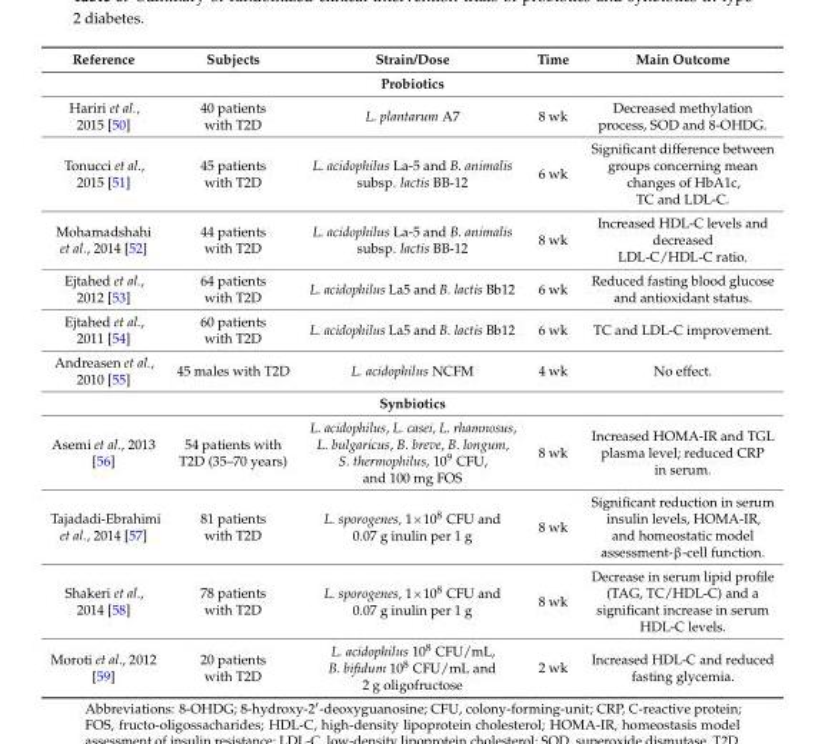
<table><thead><tr><td>Reference</td><td>Subjects</td><td>Strain/Dose</td><td>Time</td><td>Main Outcome</td></tr></thead><tbody><tr><td colspan="5">Probiotics</td></tr><tr><td>Hariri et al., 2015 [50]</td><td>40 patients with T2D</td><td>L. plantarum A7</td><td>8 wk</td><td>Decreased methylation process, SOD and 8-OHDG.</td></tr><tr><td>Tonucci et al., 2015 [51]</td><td>45 patients with T2D</td><td>L. acidophilus La-5 and B. animalis subsp. lactis BB-12</td><td>6 wk</td><td>Significant difference between groups concerning mean changes of HbA1c, TC and LDL-C.</td></tr><tr><td>Mohamadshahi et al., 2014 [52]</td><td>44 patients with T2D</td><td>L. acidophilus La-5 and B. animalis subsp. lactis BB-12</td><td>8 wk</td><td>Increased HDL-C levels and decreased LDL-C/HDL-C ratio.</td></tr><tr><td>Ejtahed et al., 2012 [53]</td><td>64 patients with T2D</td><td>L. acidophilus La5 and B. lactis Bb12</td><td>6 wk</td><td>Reduced fasting blood glucose and antioxidant status.</td></tr><tr><td>Ejtahed et al., 2011 [54]</td><td>60 patients with T2D</td><td>L. acidophilus La5 and B. lactis Bb12</td><td>6 wk</td><td>TC and LDL-C improvement.</td></tr><tr><td>Andreasen et al., 2010 [55]</td><td>45 males with T2D</td><td>L. acidophilus NCFM</td><td>4 wk</td><td>No effect.</td></tr><tr><td colspan="5">Synbiotics</td></tr><tr><td>Asemi et al., 2013 [56]</td><td>54 patients with T2D (35–70 years)</td><td>L. acidophilus, L. casei, L. rhamnosus, L. bulgaricus, B. breve, B. longum, S. thermophilus, 10<sup>9</sup> CFU, and 100 mg FOS</td><td>8 wk</td><td>Increased HOMA-IR and TGL plasma level; reduced CRP in serum.</td></tr><tr><td>Tajadadi-Ebrahimi et al., 2014 [57]</td><td>81 patients with T2D</td><td>L. sporogenes, 1ˆ108 CFU and 0.07 g inulin per 1 g</td><td>8 wk</td><td>Significant reduction in serum insulin levels, HOMA-IR, and homeostatic model assessment-β-cell function.</td></tr><tr><td>Shakeri et al., 2014 [58]</td><td>78 patients with T2D</td><td>L. sporogenes, 1ˆ108 CFU and 0.07 g inulin per 1 g</td><td>8 wk</td><td>Decrease in serum lipid profile (TAG, TC/HDL-C) and a significant increase in serum HDL-C levels.</td></tr><tr><td>Moroti et al., 2012 [59]</td><td>20 patients with T2D</td><td>L. acidophilus 10<sup>8</sup> CFU/mL, B. bifidum 10<sup>8</sup> CFU/mL and 2 g oligofructose</td><td>2 wk</td><td>Increased HDL-C and reduced fasting glycemia.</td></tr></tbody></table>